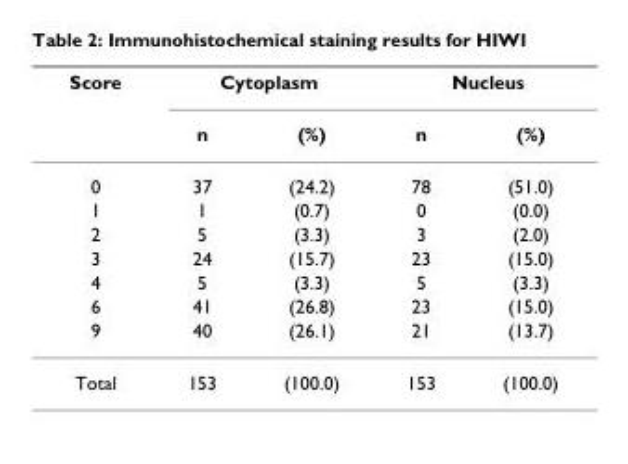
<table><thead><tr><td rowspan="2">Score</td><td colspan="2">Cytoplasm</td><td colspan="2">Nucleus</td></tr><tr><td>n</td><td>(%)</td><td>n</td><td>(%)</td></tr></thead><tbody><tr><td>0</td><td>37</td><td>(24.2)</td><td>78</td><td>(51.0)</td></tr><tr><td>1</td><td>1</td><td>(0.7)</td><td>0</td><td>(0.0)</td></tr><tr><td>2</td><td>5</td><td>(3.3)</td><td>3</td><td>(2.0)</td></tr><tr><td>3</td><td>24</td><td>(15.7)</td><td>23</td><td>(15.0)</td></tr><tr><td>4</td><td>5</td><td>(3.3)</td><td>5</td><td>(3.3)</td></tr><tr><td>6</td><td>41</td><td>(26.8)</td><td>23</td><td>(15.0)</td></tr><tr><td>9</td><td>40</td><td>(26.1)</td><td>21</td><td>(13.7)</td></tr><tr><td>Total</td><td>153</td><td>(100.0)</td><td>153</td><td>(100.0)</td></tr></tbody></table>